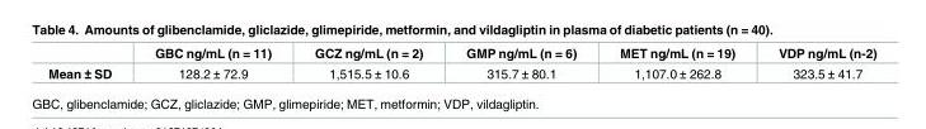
<table><thead><tr><td></td><td>GBC ng/mL (n = 11)</td><td>GCZ ng/mL (n = 2)</td><td>GMP ng/mL (n = 6)</td><td>MET ng/mL (n = 19)</td><td>VDP ng/mL (n-2)</td></tr></thead><tbody><tr><td>Mean ± SD</td><td>128.2 ± 72.9</td><td>1,515.5 ± 10.6</td><td>315.7 ± 80.1</td><td>1,107.0 ± 262.8</td><td>323.5 ± 41.7</td></tr></tbody></table>